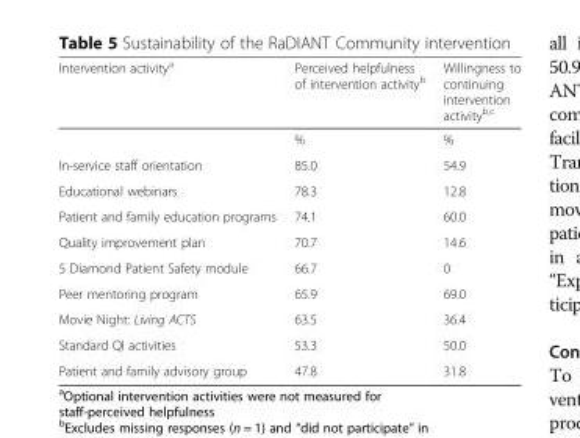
<table><thead><tr><td>Intervention activity<sup>a</sup></td><td>Perceived helpfulness of intervention activity<sup>b</sup></td><td>Willingness to continuing intervention activity<sup>b,c</sup></td></tr></thead><tbody><tr><td></td><td>%</td><td>%</td></tr><tr><td>In-service staff orientation</td><td>85.0</td><td>54.9</td></tr><tr><td>Educational webinars</td><td>78.3</td><td>12.8</td></tr><tr><td>Patient and family education programs</td><td>74.1</td><td>60.0</td></tr><tr><td>Quality improvement plan</td><td>70.7</td><td>14.6</td></tr><tr><td>5 Diamond Patient Safety module</td><td>66.7</td><td>0</td></tr><tr><td>Peer mentoring program</td><td>65.9</td><td>69.0</td></tr><tr><td>Movie Night: Living ACTS</td><td>63.5</td><td>36.4</td></tr><tr><td>Standard QI activities</td><td>53.3</td><td>50.0</td></tr><tr><td>Patient and family advisory group</td><td>47.8</td><td>31.8</td></tr></tbody></table>